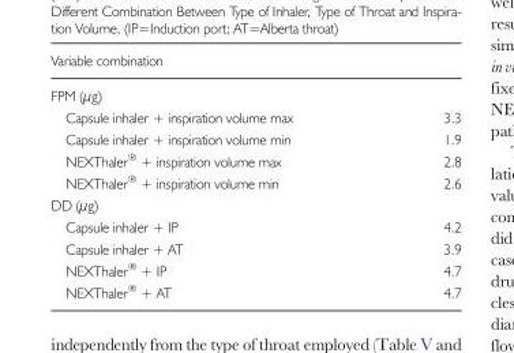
<table><thead><tr><td>Variable combination</td><td></td></tr></thead><tbody><tr><td colspan="2">FPM (μg)</td></tr><tr><td>Capsule inhaler + inspiration volume max</td><td>3.3</td></tr><tr><td>Capsule inhaler + inspiration volume min</td><td>1.9</td></tr><tr><td>NEXThaler<sup>®</sup> + inspiration volume max</td><td>2.8</td></tr><tr><td>NEXThaler<sup>®</sup> + inspiration volume min</td><td>2.6</td></tr><tr><td colspan="2">DD (μg)</td></tr><tr><td>Capsule inhaler + IP</td><td>4.2</td></tr><tr><td>Capsule inhaler + AT</td><td>3.9</td></tr><tr><td>NEXThaler<sup>®</sup> + IP</td><td>4.7</td></tr><tr><td>NEXThaler<sup>®</sup> + AT</td><td>4.7</td></tr></tbody></table>